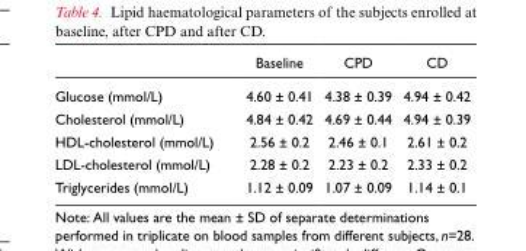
<table><thead><tr><td></td><td>Baseline</td><td>CPD</td><td>CD</td></tr></thead><tbody><tr><td>Glucose (mmol/L)</td><td>4.60 ± 0.41</td><td>4.38 ± 0.39</td><td>4.94 ± 0.42</td></tr><tr><td>Cholesterol (mmol/L)</td><td>4.84 ± 0.42</td><td>4.69 ± 0.44</td><td>4.94 ± 0.39</td></tr><tr><td>HDL-cholesterol (mmol/L)</td><td>2.56 ± 0.2</td><td>2.46 ± 0.1</td><td>2.61 ± 0.2</td></tr><tr><td>LDL-cholesterol (mmol/L)</td><td>2.28 ± 0.2</td><td>2.23 ± 0.2</td><td>2.33 ± 0.2</td></tr><tr><td>Triglycerides (mmol/L)</td><td>1.12 ± 0.09</td><td>1.07 ± 0.09</td><td>1.14 ± 0.1</td></tr></tbody></table>